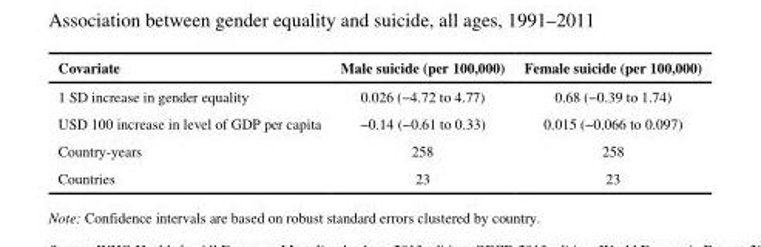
<table><thead><tr><td>Covariate</td><td>Male suicide (per 100,000)</td><td>Female suicide (per 100,000)</td></tr></thead><tbody><tr><td>1 SD increase in gender equality</td><td>0.026 (−4.72 to 4.77)</td><td>0.68 (−0.39 to 1.74)</td></tr><tr><td>USD 100 increase in level of GDP per capita</td><td>−0.14 (−0.61 to 0.33)</td><td>0.015 (−0.066 to 0.097)</td></tr><tr><td>Country-years</td><td>258</td><td>258</td></tr><tr><td>Countries</td><td>23</td><td>23</td></tr></tbody></table>